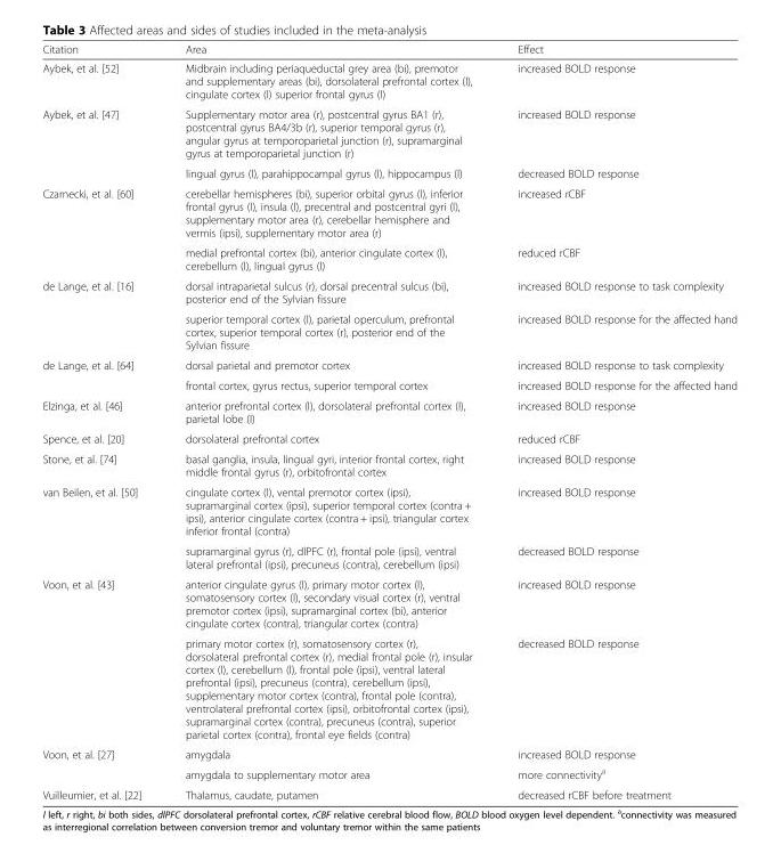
<table><thead><tr><td>Citation</td><td>Area</td><td>Effect</td></tr></thead><tbody><tr><td>Aybek, et al. [52]</td><td>Midbrain including periaqueductal grey area (bi), premotor and supplementary areas (bi), dorsolateral prefrontal cortex (l), cingulate cortex (l) superior frontal gyrus (l)</td><td>increased BOLD response</td></tr><tr><td rowspan="2">Aybek, et al. [47]</td><td>Supplementary motor area (r), postcentral gyrus BA1 (r), postcentral gyrus BA4/3b (r), superior temporal gyrus (r), angular gyrus at temporoparietal junction (r), supramarginal gyrus at temporoparietal junction (r)</td><td>increased BOLD response</td></tr><tr><td>lingual gyrus (l), parahippocampal gyrus (l), hippocampus (l)</td><td>decreased BOLD response</td></tr><tr><td rowspan="2">Czarnecki, et al. [60]</td><td>cerebellar hemispheres (bi), superior orbital gyrus (l), inferior frontal gyrus (l), insula (l), precentral and postcentral gyri (l), supplementary motor area (r), cerebellar hemisphere and vermis (ipsi), supplementary motor area (r)</td><td>increased rCBF</td></tr><tr><td>medial prefrontal cortex (bi), anterior cingulate cortex (l), cerebellum (l), lingual gyrus (l)</td><td>reduced rCBF</td></tr><tr><td rowspan="2">de Lange, et al. [16]</td><td>dorsal intraparietal sulcus (r), dorsal precentral sulcus (bi), posterior end of the Sylvian fissure</td><td>increased BOLD response to task complexity</td></tr><tr><td>superior temporal cortex (l), parietal operculum, prefrontal cortex, superior temporal cortex (r), posterior end of the Sylvian fissure</td><td>increased BOLD response for the affected hand</td></tr><tr><td rowspan="2">de Lange, et al. [64]</td><td>dorsal parietal and premotor cortex</td><td>increased BOLD response to task complexity</td></tr><tr><td>frontal cortex, gyrus rectus, superior temporal cortex</td><td>increased BOLD response for the affected hand</td></tr><tr><td>Elzinga, et al. [46]</td><td>anterior prefrontal cortex (l), dorsolateral prefrontal cortex (l), parietal lobe (l)</td><td>increased BOLD response</td></tr><tr><td>Spence, et al. [20]</td><td>dorsolateral prefrontal cortex</td><td>reduced rCBF</td></tr><tr><td>Stone, et al. [74]</td><td>basal ganglia, insula, lingual gyri, interior frontal cortex, right middle frontal gyrus (r), orbitofrontal cortex</td><td>increased BOLD response</td></tr><tr><td rowspan="2">van Beilen, et al. [50]</td><td>cingulate cortex (l), vental premotor cortex (ipsi), supramarginal cortex (ipsi), superior temporal cortex (contra + ipsi), anterior cingulate cortex (contra + ipsi), triangular cortex inferior frontal (contra)</td><td>increased BOLD response</td></tr><tr><td>supramarginal gyrus (r), dlPFC (r), frontal pole (ipsi), ventral lateral prefrontal (ipsi), precuneus (contra), cerebellum (ipsi)</td><td>decreased BOLD response</td></tr><tr><td rowspan="2">Voon, et al. [43]</td><td>anterior cingulate gyrus (l), primary motor cortex (l), somatosensory cortex (l), secondary visual cortex (r), ventral premotor cortex (ipsi), supramarginal cortex (bi), anterior cingulate cortex (contra), triangular cortex (contra)</td><td>increased BOLD response</td></tr><tr><td>primary motor cortex (r), somatosensory cortex (r), dorsolateral prefrontal cortex (r), medial frontal pole (r), insular cortex (l), cerebellum (l), frontal pole (ipsi), ventral lateral prefrontal (ipsi), precuneus (contra), cerebellum (ipsi), supplementary motor cortex (contra), frontal pole (contra), ventrolateral prefrontal cortex (ipsi), orbitofrontal cortex (ipsi), supramarginal cortex (contra), precuneus (contra), superior parietal cortex (contra), frontal eye fields (contra)</td><td>decreased BOLD response</td></tr><tr><td rowspan="2">Voon, et al. [27]</td><td>amygdala</td><td>increased BOLD response</td></tr><tr><td>amygdala to supplementary motor area</td><td>more connectivity<sup>a</sup></td></tr><tr><td>Vuilleumier, et al. [22]</td><td>Thalamus, caudate, putamen</td><td>decreased rCBF before treatment</td></tr></tbody></table>